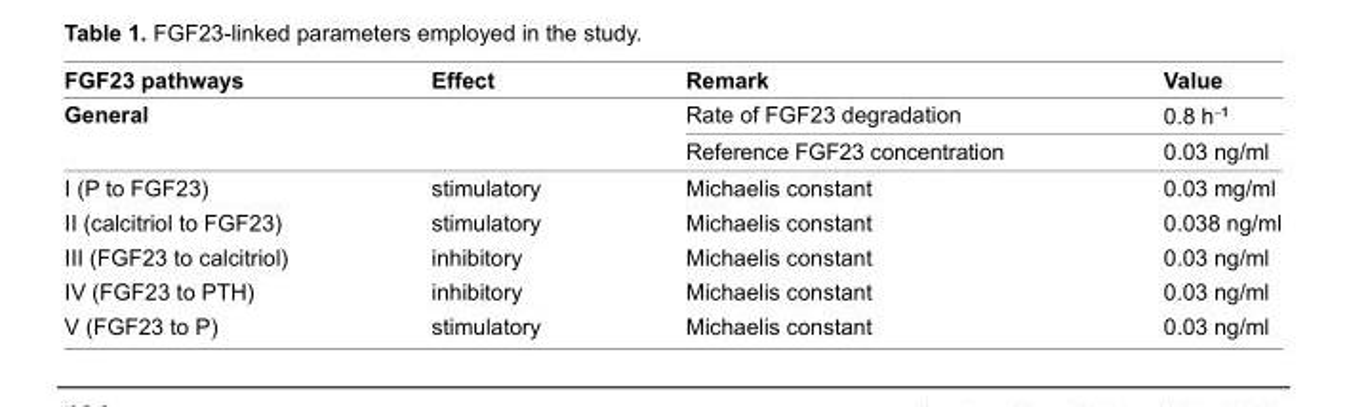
<table><thead><tr><td>FGF23 pathways</td><td>effect</td><td>Remark</td><td>Value</td></tr></thead><tbody><tr><td rowspan="2">General</td><td></td><td>Rate of FGF23 degradation</td><td>0.8 h<sup>-1</sup></td></tr><tr><td></td><td>Reference FGF23 concentration</td><td>0.03 ng/ml</td></tr><tr><td>i (P to FGF23)</td><td>stimulatory</td><td>Michaelis constant</td><td>0.03 mg/ml</td></tr><tr><td>ii (calcitriol to FGF23)</td><td>stimulatory</td><td>Michaelis constant</td><td>0.038 ng/ml</td></tr><tr><td>iii (FGF23 to calcitriol)</td><td>inhibitory</td><td>Michaelis constant</td><td>0.03 ng/ml</td></tr><tr><td>iV (FGF23 to PTh)</td><td>inhibitory</td><td>Michaelis constant</td><td>0.03 ng/ml</td></tr><tr><td>V (FGF23 to P)</td><td>stimulatory</td><td>Michaelis constant</td><td>0.03 ng/ml</td></tr></tbody></table>